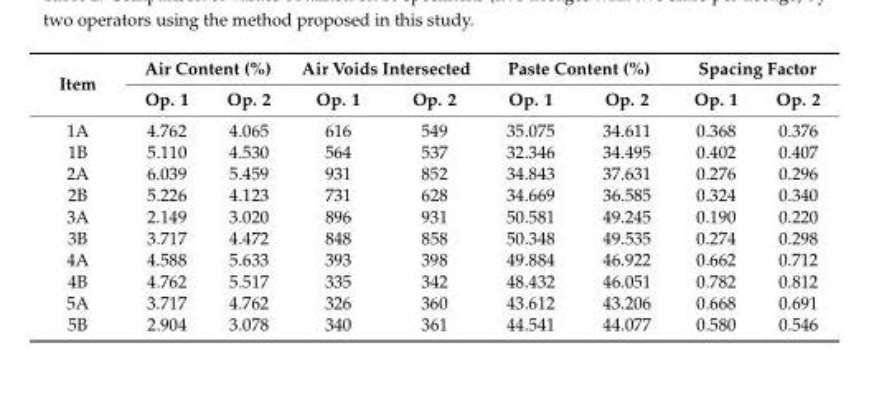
<table><thead><tr><td rowspan="2">Item</td><td colspan="2">Air Content (%)</td><td colspan="2">Air Voids Intersected</td><td colspan="2">Paste Content (%)</td><td colspan="2">Spacing Factor</td></tr><tr><td>Op. 1</td><td>Op. 2</td><td>Op. 1</td><td>Op. 2</td><td>Op. 1</td><td>Op. 2</td><td>Op. 1</td><td>Op. 2</td></tr></thead><tbody><tr><td>1A</td><td>4.762</td><td>4.065</td><td>616</td><td>549</td><td>35.075</td><td>34.611</td><td>0.368</td><td>0.376</td></tr><tr><td>1B</td><td>5.110</td><td>4.530</td><td>564</td><td>537</td><td>32.346</td><td>34.495</td><td>0.402</td><td>0.407</td></tr><tr><td>2A</td><td>6.039</td><td>5.459</td><td>931</td><td>852</td><td>34.843</td><td>37.631</td><td>0.276</td><td>0.296</td></tr><tr><td>2B</td><td>5.226</td><td>4.123</td><td>731</td><td>628</td><td>34.669</td><td>36.585</td><td>0.324</td><td>0.340</td></tr><tr><td>3A</td><td>2.149</td><td>3.020</td><td>896</td><td>931</td><td>50.581</td><td>49.245</td><td>0.190</td><td>0.220</td></tr><tr><td>3B</td><td>3.717</td><td>4.472</td><td>848</td><td>858</td><td>50.348</td><td>49.535</td><td>0.274</td><td>0.298</td></tr><tr><td>4A</td><td>4.588</td><td>5.633</td><td>393</td><td>398</td><td>49.884</td><td>46.922</td><td>0.662</td><td>0.712</td></tr><tr><td>4B</td><td>4.762</td><td>5.517</td><td>335</td><td>342</td><td>48.432</td><td>46.051</td><td>0.782</td><td>0.812</td></tr><tr><td>5A</td><td>3.717</td><td>4.762</td><td>326</td><td>360</td><td>43.612</td><td>43.206</td><td>0.668</td><td>0.691</td></tr><tr><td>5B</td><td>2.904</td><td>3.078</td><td>340</td><td>361</td><td>44.541</td><td>44.077</td><td>0.580</td><td>0.546</td></tr></tbody></table>